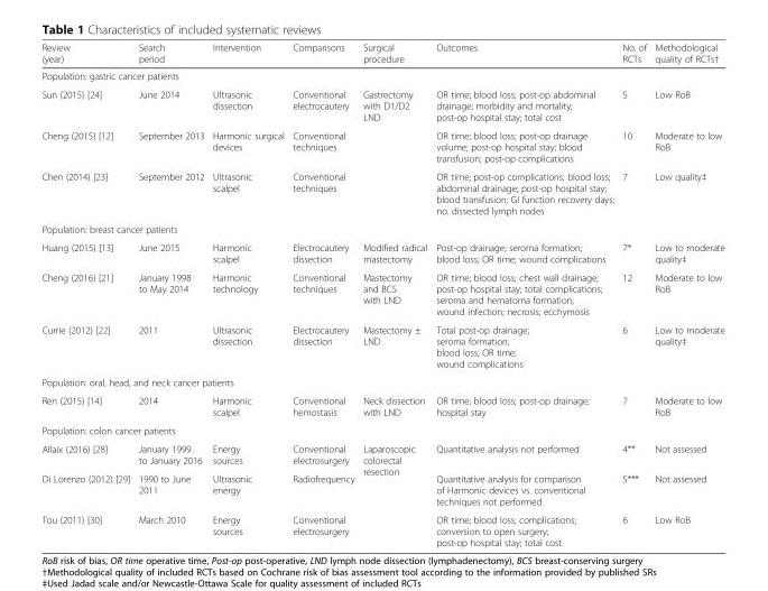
<table><thead><tr><td>Review (year)</td><td>Search period</td><td>Intervention</td><td>Comparisons</td><td>Surgical procedure</td><td>Outcomes</td><td>No. of RCTs</td><td>Methodological quality of RCTs†</td></tr></thead><tbody><tr><td colspan="8">Population: gastric cancer patients</td></tr><tr><td>Sun (2015) [24]</td><td>June 2014</td><td>Ultrasonic dissection</td><td>Conventional electrocautery</td><td rowspan="3">Gastrectomy with D1/D2 LND</td><td>OR time; blood loss; post-op abdominal drainage; morbidity and mortality; post-op hospital stay; total cost</td><td>5</td><td>Low RoB</td></tr><tr><td>Cheng (2015) [12]</td><td>September 2013</td><td>Harmonic surgical devices</td><td>Conventional techniques</td><td>OR time; blood loss; post-op drainage volume; post-op hospital stay; blood transfusion; post-op complications</td><td>10</td><td>Moderate to low RoB</td></tr><tr><td>Chen (2014) [23]</td><td>September 2012</td><td>Ultrasonic scalpel</td><td>Conventional techniques</td><td>OR time; post-op complications; blood loss; abdominal drainage; post-op hospital stay; blood transfusion; GI function recovery days; no. dissected lymph nodes</td><td>7</td><td>Low quality‡</td></tr><tr><td colspan="8">Population: breast cancer patients</td></tr><tr><td>Huang (2015) [13]</td><td>June 2015</td><td>Harmonic scalpel</td><td>Electrocautery dissection</td><td>Modified radical mastectomy</td><td>Post-op drainage; seroma formation; blood loss; OR time; wound complications</td><td>7*</td><td>Low to moderate quality‡</td></tr><tr><td>Cheng (2016) [21]</td><td>January 1998 to May 2014</td><td>Harmonic technology</td><td>Conventional techniques</td><td>Mastectomy and BCS with LND</td><td>OR time; blood loss; chest wall drainage; post-op hospital stay; total complications; seroma and hematoma formation; wound infection; necrosis; ecchymosis</td><td>12</td><td>Moderate to low RoB</td></tr><tr><td>Currie (2012) [22]</td><td>2011</td><td>Ultrasonic dissection</td><td>Electrocautery dissection</td><td>Mastectomy ± LND</td><td>Total post-op drainage; seroma formation; blood loss; OR time; wound complications</td><td>6</td><td>Low to moderate quality‡</td></tr><tr><td colspan="8">Population: oral, head, and neck cancer patients</td></tr><tr><td>Ren (2015) [14]</td><td>2014</td><td>Harmonic scalpel</td><td>Conventional hemostasis</td><td>Neck dissection with LND</td><td>OR time; blood loss; post-op drainage; hospital stay</td><td>7</td><td>Moderate to low RoB</td></tr><tr><td colspan="8">Population: colon cancer patients</td></tr><tr><td>Allaix (2016) [28]</td><td>January 1999 to January 2016</td><td>Energy sources</td><td>Conventional electrosurgery</td><td rowspan="3">Laparoscopic colorectal resection</td><td>Quantitative analysis not performed</td><td>4**</td><td>Not assessed</td></tr><tr><td>Di Lorenzo (2012) [29]</td><td>1990 to June 2011</td><td>Ultrasonic energy</td><td>Radiofrequency</td><td>Quantitative analysis for comparison of Harmonic devices vs. conventional techniques not performed</td><td>5***</td><td>Not assessed</td></tr><tr><td>Tou (2011) [30]</td><td>March 2010</td><td>Energy sources</td><td>Conventional electrosurgery</td><td>OR time; blood loss; complications; conversion to open surgery; post-op hospital stay; total cost</td><td>6</td><td>Low RoB</td></tr></tbody></table>